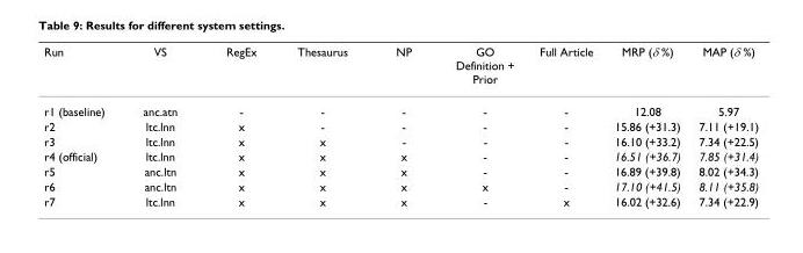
<table><thead><tr><td>Run</td><td>VS</td><td>RegEx</td><td>Thesaurus</td><td>NP</td><td>GO Definition + Prior</td><td>Full Article</td><td>MRP (δ %)</td><td>MAP (δ %)</td></tr></thead><tbody><tr><td>r1 (baseline)</td><td>anc.atn</td><td>-</td><td>-</td><td>-</td><td>-</td><td>-</td><td>12.08</td><td>5.97</td></tr><tr><td>r2</td><td>ltc.lnn</td><td>x</td><td>-</td><td>-</td><td>-</td><td>-</td><td>15.86 (+31.3)</td><td>7.11 (+19.1)</td></tr><tr><td>r3</td><td>ltc.lnn</td><td>x</td><td>x</td><td>-</td><td>-</td><td>-</td><td>16.10 (+33.2)</td><td>7.34 (+22.5)</td></tr><tr><td>r4 (official)</td><td>ltc.lnn</td><td>x</td><td>x</td><td>x</td><td>-</td><td>-</td><td>16.51 (+36.7)</td><td>7.85 (+31.4)</td></tr><tr><td>r5</td><td>anc.ltn</td><td>x</td><td>x</td><td>x</td><td>-</td><td>-</td><td>16.89 (+39.8)</td><td>8.02 (+34.3)</td></tr><tr><td>r6</td><td>anc.ltn</td><td>x</td><td>x</td><td>x</td><td>x</td><td>-</td><td>17.10 (+41.5)</td><td>8.11 (+35.8)</td></tr><tr><td>r7</td><td>ltc.lnn</td><td>x</td><td>x</td><td>x</td><td>-</td><td>x</td><td>16.02 (+32.6)</td><td>7.34 (+22.9)</td></tr></tbody></table>